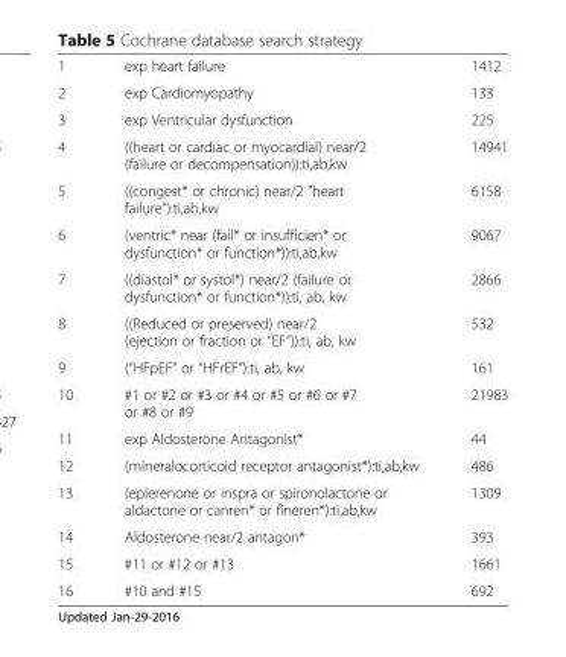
<table><tbody><tr><td>1</td><td>exp heart failure</td><td>1412</td></tr><tr><td>2</td><td>exp Cardiomyopathy</td><td>133</td></tr><tr><td>3</td><td>exp Ventricular dysfunction</td><td>225</td></tr><tr><td>4</td><td>((heart or cardiac or myocardial) near/2 (failure or decompensation)):ti,ab,kw</td><td>14941</td></tr><tr><td>5</td><td>((congest* or chronic) near/2 &quot;heart failure&quot;):ti,ab,kw</td><td>6158</td></tr><tr><td>6</td><td>(ventric* near (fail* or insufficien* or dysfunction* or function*)):ti,ab,kw</td><td>9067</td></tr><tr><td>7</td><td>((diastol* or systol*) near/2 (failure or dysfunction* or function*)):ti, ab, kw</td><td>2866</td></tr><tr><td>8</td><td>((Reduced or preserved) near/2 (ejection or fraction or “EF”)):ti, ab, kw</td><td>532</td></tr><tr><td>9</td><td>(“HFpEF” or “HFrEF”):ti, ab, kw</td><td>161</td></tr><tr><td>10</td><td>#1 or #2 or #3 or #4 or #5 or #6 or #7 or #8 or #9</td><td>21983</td></tr><tr><td>11</td><td>exp Aldosterone Antagonist*</td><td>44</td></tr><tr><td>12</td><td>(mineralocorticoid receptor antagonist*):ti,ab,kw</td><td>486</td></tr><tr><td>13</td><td>(eplerenone or inspra or spironolactone or aldactone or canren* or fineren*):ti,ab,kw</td><td>1309</td></tr><tr><td>14</td><td>Aldosterone near/2 antagon*</td><td>393</td></tr><tr><td>15</td><td>#11 or #12 or #13</td><td>1661</td></tr><tr><td>16</td><td>#10 and #15</td><td>692</td></tr></tbody></table>